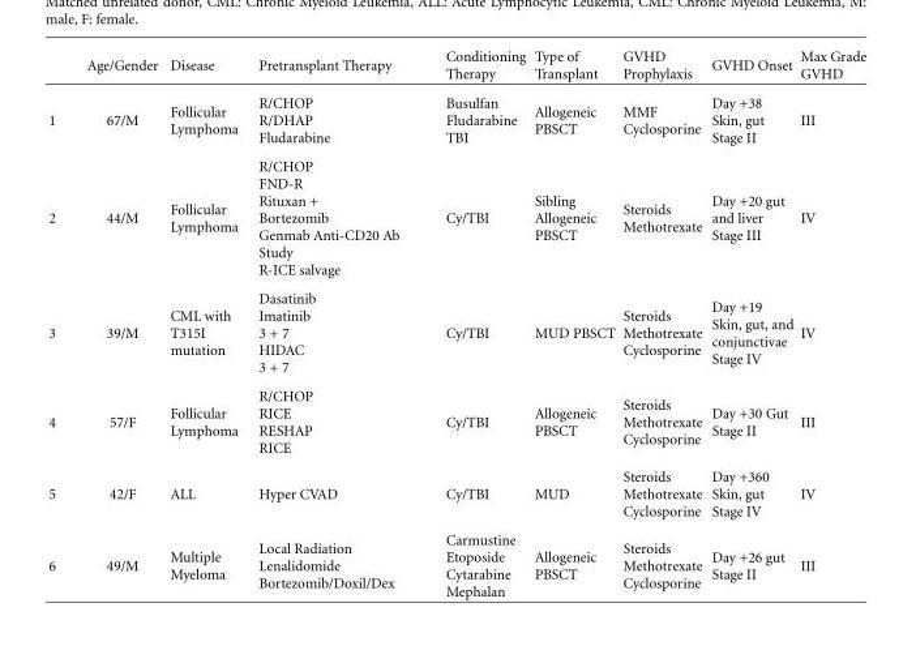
<table><thead><tr><td></td><td>Age/Gender</td><td>Disease</td><td>Pretransplant Therapy</td><td>Conditioning Therapy</td><td>Type of Transplant</td><td>GVHD Prophylaxis</td><td>GVHD Onset</td><td>Max Grade GVHD</td></tr></thead><tbody><tr><td>1</td><td>67/M</td><td>Follicular Lymphoma</td><td>R/CHOP R/DHAP Fludarabine</td><td>Busulfan Fludarabine TBI</td><td>Allogeneic PBSCT</td><td>MMF Cyclosporine</td><td>Day +38 Skin, gut Stage II</td><td>III</td></tr><tr><td>2</td><td>44/M</td><td>Follicular Lymphoma</td><td>R/CHOP FND-R Rituxan + Bortezomib Genmab Anti-CD20 Ab Study R-ICE salvage</td><td>Cy/TBI</td><td>Sibling Allogeneic PBSCT</td><td>Steroids Methotrexate</td><td>Day +20 gut and liver Stage III</td><td>IV</td></tr><tr><td>3</td><td>39/M</td><td>CML with T315I mutation</td><td>Dasatinib Imatinib 3 + 7 HIDAC 3 + 7</td><td>Cy/TBI</td><td>MUD PBSCT</td><td>Steroids Methotrexate Cyclosporine</td><td>Day +19 Skin, gut, and conjunctivae Stage IV</td><td>IV</td></tr><tr><td>4</td><td>57/F</td><td>Follicular Lymphoma</td><td>R/CHOP RICE RESHAP RICE</td><td>Cy/TBI</td><td>Allogeneic PBSCT</td><td>Steroids Methotrexate Cyclosporine</td><td>Day +30 Gut Stage II</td><td>III</td></tr><tr><td>5</td><td>42/F</td><td>ALL</td><td>Hyper CVAD</td><td>Cy/TBI</td><td>MUD</td><td>Steroids Methotrexate Cyclosporine</td><td>Day +360 Skin, gut Stage IV</td><td>IV</td></tr><tr><td>6</td><td>49/M</td><td>Multiple Myeloma</td><td>Local Radiation Lenalidomide Bortezomib/Doxil/Dex</td><td>Carmustine Etoposide Cytarabine Mephalan</td><td>Allogeneic PBSCT</td><td>Steroids Methotrexate Cyclosporine</td><td>Day +26 gut Stage II</td><td>III</td></tr></tbody></table>